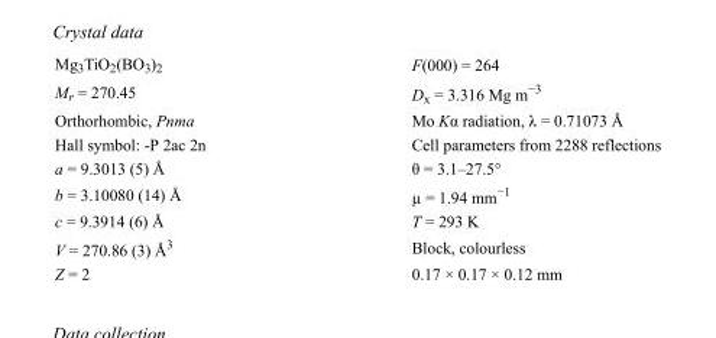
<table><tbody><tr><td>Mg<sub>3</sub>TiO<sub>2</sub>(BO<sub>3</sub>)<sub>2</sub></td><td>F(000) = 264</td></tr><tr><td>M<sub>r</sub> = 270.45</td><td>D<sub>x</sub> = 3.316 Mg m<sup>−3</sup></td></tr><tr><td>Orthorhombic, Pnma</td><td>Mo Kα radiation, λ = 0.71073 Å</td></tr><tr><td>Hall symbol: -P 2ac 2n</td><td>Cell parameters from 2288 reflections</td></tr><tr><td>a = 9.3013 (5) Å</td><td>θ = 3.1–27.5°</td></tr><tr><td>b = 3.10080 (14) Å</td><td>µ = 1.94 mm<sup>−1</sup></td></tr><tr><td>c = 9.3914 (6) Å</td><td>T = 293 K</td></tr><tr><td>V = 270.86 (3) Å<sup>3</sup></td><td>Block, colourless</td></tr><tr><td>Z = 2</td><td>0.17 × 0.17 × 0.12 mm</td></tr></tbody></table>